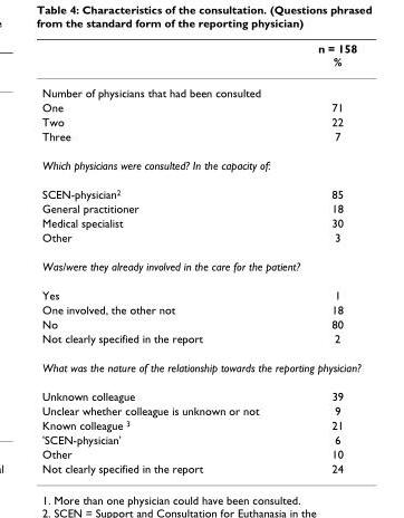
<table><thead><tr><td></td><td>n = 158 %</td></tr></thead><tbody><tr><td colspan="2">Number of physicians that had been consulted</td></tr><tr><td>One</td><td>71</td></tr><tr><td>Two</td><td>22</td></tr><tr><td>Three</td><td>7</td></tr><tr><td colspan="2">Which physicians were consulted? In the capacity of:</td></tr><tr><td>SCEN-physician<sup>2</sup></td><td>85</td></tr><tr><td>General practitioner</td><td>18</td></tr><tr><td>Medical specialist</td><td>30</td></tr><tr><td>Other</td><td>3</td></tr><tr><td colspan="2">Was/were they already involved in the care for the patient?</td></tr><tr><td>Yes</td><td>1</td></tr><tr><td>One involved, the other not</td><td>18</td></tr><tr><td>No</td><td>80</td></tr><tr><td>Not clearly specified in the report</td><td>2</td></tr><tr><td colspan="2">What was the nature of the relationship towards the reporting physician?</td></tr><tr><td>Unknown colleague</td><td>39</td></tr><tr><td>Unclear whether colleague is unknown or not</td><td>9</td></tr><tr><td>Known colleague <sup>3</sup></td><td>21</td></tr><tr><td>&#x27;SCEN-physician&#x27;</td><td>6</td></tr><tr><td>Other</td><td>10</td></tr><tr><td>Not clearly specified in the report</td><td>24</td></tr></tbody></table>